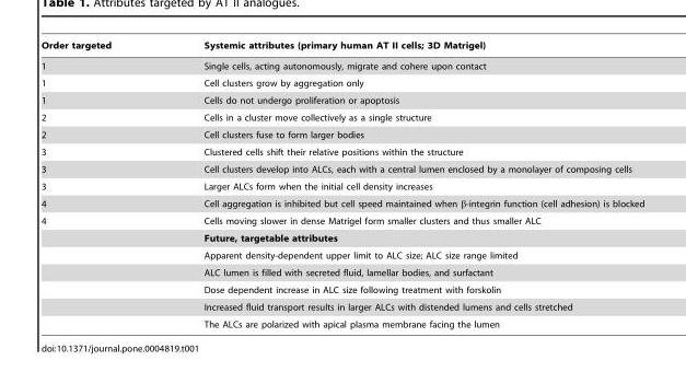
<table><thead><tr><td>Order targeted</td><td>Systemic attributes (primary human AT II cells; 3D Matrigel)</td></tr></thead><tbody><tr><td>1</td><td>Single cells, acting autonomously, migrate and cohere upon contact</td></tr><tr><td>1</td><td>Cell clusters grow by aggregation only</td></tr><tr><td>1</td><td>Cells do not undergo proliferation or apoptosis</td></tr><tr><td>2</td><td>Cells in a cluster move collectively as a single structure</td></tr><tr><td>2</td><td>Cell clusters fuse to form larger bodies</td></tr><tr><td>3</td><td>Clustered cells shift their relative positions within the structure</td></tr><tr><td>3</td><td>Cell clusters develop into ALCs, each with a central lumen enclosed by a monolayer of composing cells</td></tr><tr><td>3</td><td>Larger ALCs form when the initial cell density increases</td></tr><tr><td>4</td><td>Cell aggregation is inhibited but cell speed maintained when β-integrin function (cell adhesion) is blocked</td></tr><tr><td rowspan="7">4</td><td>Cells moving slower in dense Matrigel form smaller clusters and thus smaller ALC</td></tr><tr><td>Future, targetable attributes</td></tr><tr><td>Apparent density-dependent upper limit to ALC size; ALC size range limited</td></tr><tr><td>ALC lumen is filled with secreted fluid, lamellar bodies, and surfactant</td></tr><tr><td>Dose dependent increase in ALC size following treatment with forskolin</td></tr><tr><td>Increased fluid transport results in larger ALCs with distended lumens and cells stretched</td></tr><tr><td>The ALCs are polarized with apical plasma membrane facing the lumen</td></tr></tbody></table>